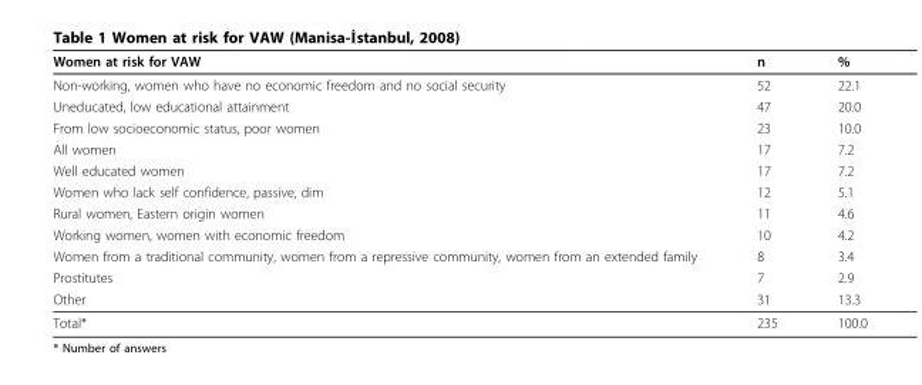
<table><thead><tr><td>Women at risk for VAW</td><td>n</td><td>%</td></tr></thead><tbody><tr><td>Non-working, women who have no economic freedom and no social security</td><td>52</td><td>22.1</td></tr><tr><td>Uneducated, low educational attainment</td><td>47</td><td>20.0</td></tr><tr><td>From low socioeconomic status, poor women</td><td>23</td><td>10.0</td></tr><tr><td>All women</td><td>17</td><td>7.2</td></tr><tr><td>Well educated women</td><td>17</td><td>7.2</td></tr><tr><td>Women who lack self confidence, passive, dim</td><td>12</td><td>5.1</td></tr><tr><td>Rural women, Eastern origin women</td><td>11</td><td>4.6</td></tr><tr><td>Working women, women with economic freedom</td><td>10</td><td>4.2</td></tr><tr><td>Women from a traditional community, women from a repressive community, women from an extended family</td><td>8</td><td>3.4</td></tr><tr><td>Prostitutes</td><td>7</td><td>2.9</td></tr><tr><td>Other</td><td>31</td><td>13.3</td></tr><tr><td>Total*</td><td>235</td><td>100.0</td></tr></tbody></table>